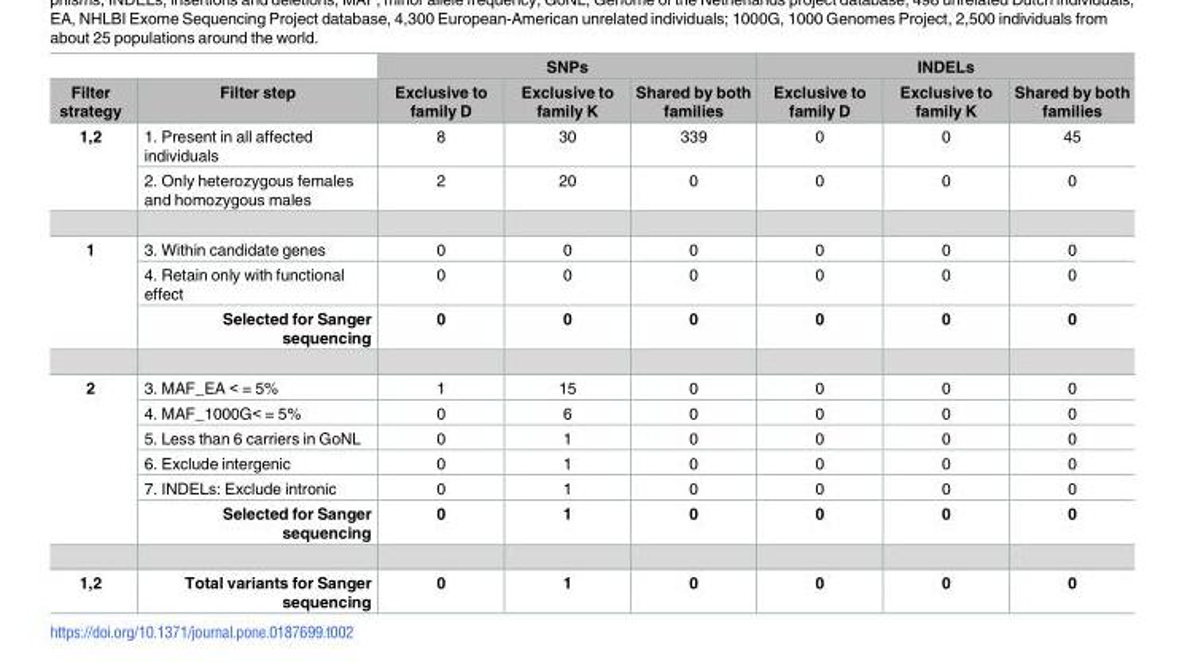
<table><thead><tr><td rowspan="2">Filter strategy</td><td rowspan="2">Filter step</td><td colspan="3">SNPs</td><td colspan="3">INDELs</td></tr><tr><td>Exclusive to family D</td><td>Exclusive to family K</td><td>Shared by both families</td><td>Exclusive to family D</td><td>Exclusive to family K</td><td>Shared by both families</td></tr></thead><tbody><tr><td rowspan="2">1,2</td><td>1. Present in all affected individuals</td><td>8</td><td>30</td><td>339</td><td>0</td><td>0</td><td>45</td></tr><tr><td>2. Only heterozygous females and homozygous males</td><td>2</td><td>20</td><td>0</td><td>0</td><td>0</td><td>0</td></tr><tr><td rowspan="3">1</td><td>3. Within candidate genes</td><td>0</td><td>0</td><td>0</td><td>0</td><td>0</td><td>0</td></tr><tr><td>4. Retain only with functional effect</td><td>0</td><td>0</td><td>0</td><td>0</td><td>0</td><td>0</td></tr><tr><td>Selected for Sanger sequencing</td><td>0</td><td>0</td><td>0</td><td>0</td><td>0</td><td>0</td></tr><tr><td rowspan="6">2</td><td>3. MAF_EA &lt; = 5%</td><td>1</td><td>15</td><td>0</td><td>0</td><td>0</td><td>0</td></tr><tr><td>4. MAF_1000G&lt; = 5%</td><td>0</td><td>6</td><td>0</td><td>0</td><td>0</td><td>0</td></tr><tr><td>5. Less than 6 carriers in GoNL</td><td>0</td><td>1</td><td>0</td><td>0</td><td>0</td><td>0</td></tr><tr><td>6. Exclude intergenic</td><td>0</td><td>1</td><td>0</td><td>0</td><td>0</td><td>0</td></tr><tr><td>7. INDELs: Exclude intronic</td><td>0</td><td>1</td><td>0</td><td>0</td><td>0</td><td>0</td></tr><tr><td>Selected for Sanger sequencing</td><td>0</td><td>1</td><td>0</td><td>0</td><td>0</td><td>0</td></tr><tr><td>1,2</td><td>Total variants for Sanger sequencing</td><td>0</td><td>1</td><td>0</td><td>0</td><td>0</td><td>0</td></tr></tbody></table>